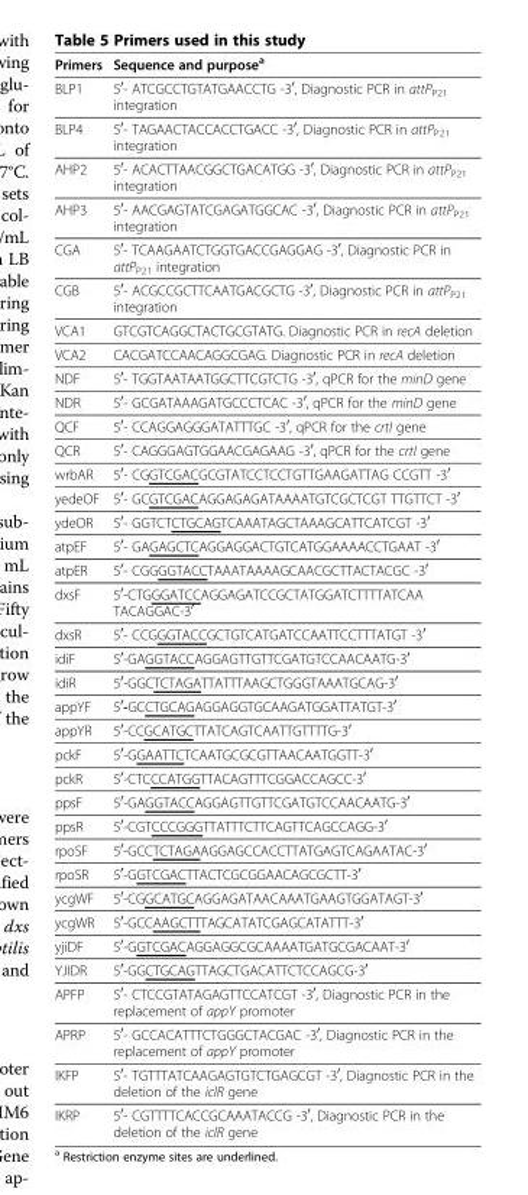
<table><thead><tr><td>Primers</td><td>Sequence and purpose<sup>a</sup></td></tr></thead><tbody><tr><td>BLP1</td><td>5<sup>′</sup>- ATCGCCTGTATGAACCTG -3<sup>′</sup>, Diagnostic PCR in attP<sub>P21</sub> integration</td></tr><tr><td>BLP4</td><td>5<sup>′</sup>- TAGAACTACCACCTGACC -3<sup>′</sup>, Diagnostic PCR in attP<sub>P21</sub> integration</td></tr><tr><td>AHP2</td><td>5<sup>′</sup>- ACACTTAACGGCTGACATGG -3<sup>′</sup>, Diagnostic PCR in attP<sub>P21</sub> integration</td></tr><tr><td>AHP3</td><td>5<sup>′</sup>- AACGAGTATCGAGATGGCAC -3<sup>′</sup>, Diagnostic PCR in attP<sub>P21</sub> integration</td></tr><tr><td>CGA</td><td>5<sup>′</sup>- TCAAGAATCTGGTGACCGAGGAG -3<sup>′</sup>, Diagnostic PCR in attP<sub>P21</sub> integration</td></tr><tr><td>CGB</td><td>5<sup>′</sup>- ACGCCGCTTCAATGACGCTG -3<sup>′</sup>, Diagnostic PCR in attP<sub>P21</sub> integration</td></tr><tr><td>VCA1</td><td>GTCGTCAGGCTACTGCGTATG. Diagnostic PCR in recA deletion</td></tr><tr><td>VCA2</td><td>CACGATCCAACAGGCGAG. Diagnostic PCR in recA deletion</td></tr><tr><td>NDF</td><td>5<sup>′</sup>- TGGTAATAATGGCTTCGTCTG -3<sup>′</sup>, qPCR for the minD gene</td></tr><tr><td>NDR</td><td>5<sup>′</sup>- GCGATAAAGATGCCCTCAC -3<sup>′</sup>, qPCR for the minD gene</td></tr><tr><td>QCF</td><td>5<sup>′</sup>- CCAGGAGGGATATTTGC -3<sup>′</sup>, qPCR for the crtI gene</td></tr><tr><td>QCR</td><td>5<sup>′</sup>- CAGGGAGTGGAACGAGAAG -3<sup>′</sup>, qPCR for the crtI gene</td></tr><tr><td>wrbAR</td><td>5<sup>′</sup>- CGGTCGACGCGTATCCTCCTGTTGAAGATTAG CCGTT -3<sup>′</sup></td></tr><tr><td>yedeOF</td><td>5<sup>′</sup>- GCGTCGACAGGAGAGATAAAATGTCGCTCGT TTGTTCT -3<sup>′</sup></td></tr><tr><td>ydeOR</td><td>5<sup>′</sup>- GGTCTCTGCAGTCAAATAGCTAAAGCATTCATCGT -3<sup>′</sup></td></tr><tr><td>atpEF</td><td>5<sup>′</sup>- GAGAGCTCAGGAGGACTGTCATGGAAAACCTGAAT -3<sup>′</sup></td></tr><tr><td>atpER</td><td>5<sup>′</sup>- CGGGGTACCTAAATAAAAGCAACGCTTACTACGC -3<sup>′</sup></td></tr><tr><td>dxsF</td><td>5<sup>′</sup>-CTGGGATCCAGGAGATCCGCTATGGATCTTTTATCAA TACAGGAC-3<sup>′</sup></td></tr><tr><td>dxsR</td><td>5<sup>′</sup>- CCGGGTACCGCTGTCATGATCCAATTCCTTTATGT -3<sup>′</sup></td></tr><tr><td>idiF</td><td>5<sup>′</sup>-GAGGTACCAGGAGTTGTTCGATGTCCAACAATG-3<sup>′</sup></td></tr><tr><td>idiR</td><td>5<sup>′</sup>-GGCTCTAGATTATTTAAGCTGGGTAAATGCAG-3<sup>′</sup></td></tr><tr><td>appYF</td><td>5<sup>′</sup>-GCCTGCAGAGGAGGTGCAAGATGGATTATGT-3<sup>′</sup></td></tr><tr><td>appYR</td><td>5<sup>′</sup>-CCGCATGCTTATCAGTCAATTGTTTTG-3<sup>′</sup></td></tr><tr><td>pckF</td><td>5<sup>′</sup>-GGAATTCTCAATGCGCGTTAACAATGGTT-3<sup>′</sup></td></tr><tr><td>pckR</td><td>5<sup>′</sup>-CTCCCATGGTTACAGTTTCGGACCAGCC-3<sup>′</sup></td></tr><tr><td>ppsF</td><td>5<sup>′</sup>-GAGGTACCAGGAGTTGTTCGATGTCCAACAATG-3<sup>′</sup></td></tr><tr><td>ppsR</td><td>5<sup>′</sup>-CGTCCCGGGTTATTTCTTCAGTTCAGCCAGG-3<sup>′</sup></td></tr><tr><td>rpoSF</td><td>5<sup>′</sup>-GCCTCTAGAAGGAGCCACCTTATGAGTCAGAATAC-3<sup>′</sup></td></tr><tr><td>rpoSR</td><td>5<sup>′</sup>-GGTCGACTTACTCGCGGAACAGCGCTT-3<sup>′</sup></td></tr><tr><td>ycgWF</td><td>5<sup>′</sup>-CGGCATGCAGGAGATAACAAATGAAGTGGATAGT-3<sup>′</sup></td></tr><tr><td>ycgWR</td><td>5<sup>′</sup>-GCCAAGCTTTAGCATATCGAGCATATTT-3<sup>′</sup></td></tr><tr><td>yjiDF</td><td>5<sup>′</sup>-GGTCGACAGGAGGCGCAAAATGATGCGACAAT-3<sup>′</sup></td></tr><tr><td>YJIDR</td><td>5<sup>′</sup>-GGCTGCAGTTAGCTGACATTCTCCAGCG-3<sup>′</sup></td></tr><tr><td>APFP</td><td>5<sup>′</sup>- CTCCGTATAGAGTTCCATCGT -3<sup>′</sup>, Diagnostic PCR in the replacement of appY promoter</td></tr><tr><td>APRP</td><td>5<sup>′</sup>- GCCACATTTCTGGGCTACGAC -3<sup>′</sup>, Diagnostic PCR in the replacement of appY promoter</td></tr><tr><td>IKFP</td><td>5<sup>′</sup>- TGTTTATCAAGAGTGTCTGAGCGT -3<sup>′</sup>, Diagnostic PCR in the deletion of the iclR gene</td></tr><tr><td>IKRP</td><td>5<sup>′</sup>- CGTTTTCACCGCAAATACCG -3<sup>′</sup>, Diagnostic PCR in the deletion of the iclR gene</td></tr></tbody></table>